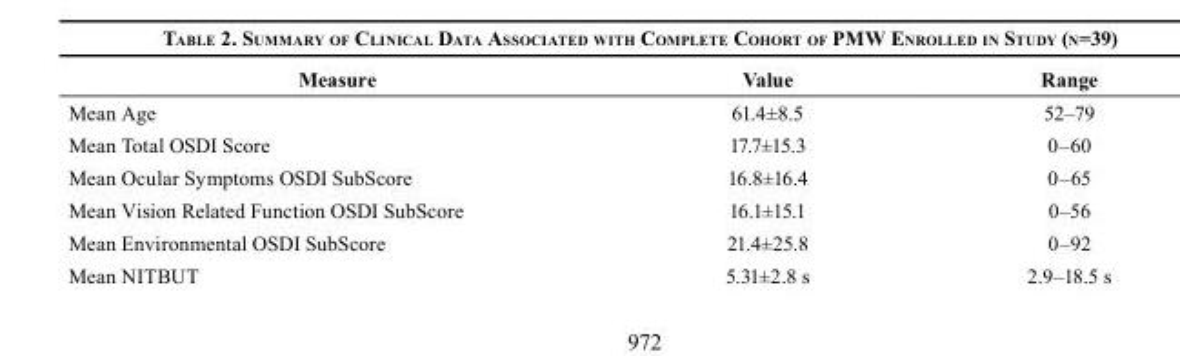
<table><thead><tr><td>Measure</td><td>Value</td><td>Range</td></tr></thead><tbody><tr><td>Mean Age</td><td>61.4±8.5</td><td>52–79</td></tr><tr><td>Mean Total OSDI Score</td><td>17.7±15.3</td><td>0–60</td></tr><tr><td>Mean Ocular Symptoms OSDI SubScore</td><td>16.8±16.4</td><td>0–65</td></tr><tr><td>Mean Vision Related Function OSDI SubScore</td><td>16.1±15.1</td><td>0–56</td></tr><tr><td>Mean Environmental OSDI SubScore</td><td>21.4±25.8</td><td>0–92</td></tr><tr><td>Mean NITBUT</td><td>5.31±2.8 s</td><td>2.9–18.5 s</td></tr></tbody></table>